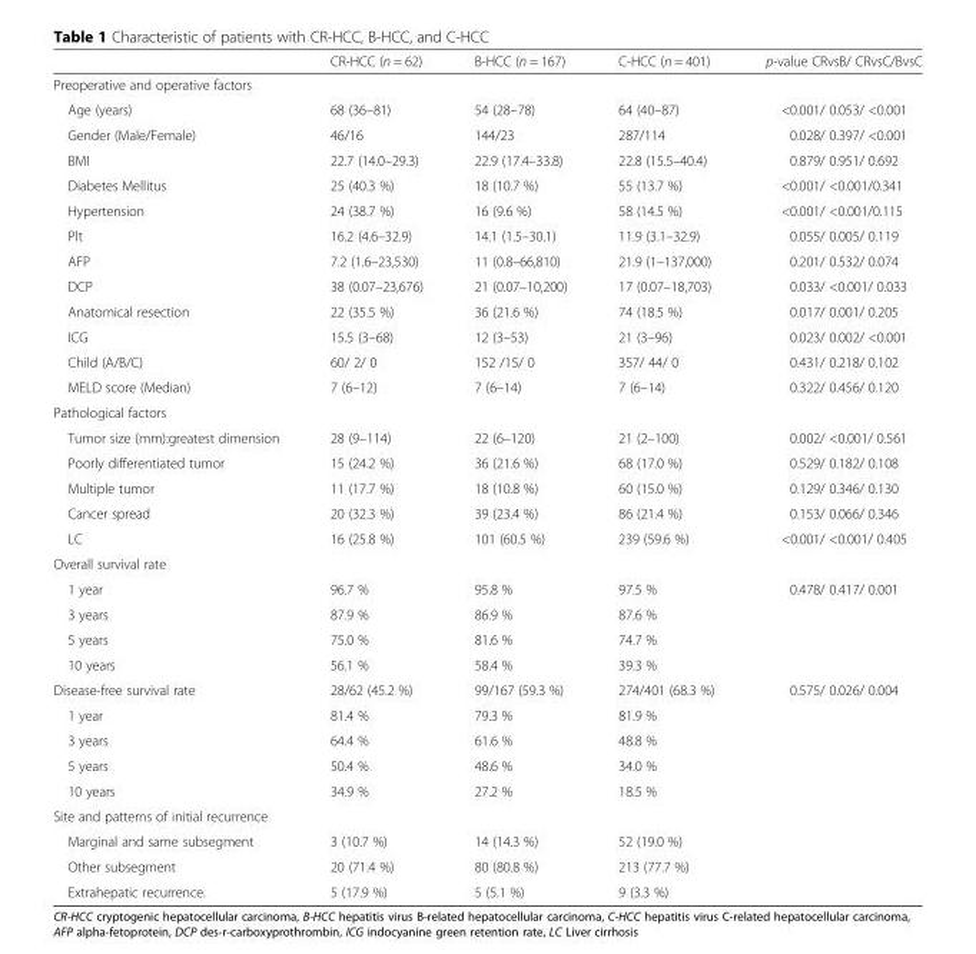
<table><thead><tr><td></td><td>CR-HCC (n = 62)</td><td>B-HCC (n = 167)</td><td>C-HCC (n = 401)</td><td>p-value CRvsB/ CRvsC/BvsC</td></tr></thead><tbody><tr><td colspan="5">Preoperative and operative factors</td></tr><tr><td>Age (years)</td><td>68 (36–81)</td><td>54 (28–78)</td><td>64 (40–87)</td><td>&lt;0.001/ 0.053/ &lt;0.001</td></tr><tr><td>Gender (Male/Female)</td><td>46/16</td><td>144/23</td><td>287/114</td><td>0.028/ 0.397/ &lt;0.001</td></tr><tr><td>BMI</td><td>22.7 (14.0–29.3)</td><td>22.9 (17.4–33.8)</td><td>22.8 (15.5–40.4)</td><td>0.879/ 0.951/ 0.692</td></tr><tr><td>Diabetes Mellitus</td><td>25 (40.3 %)</td><td>18 (10.7 %)</td><td>55 (13.7 %)</td><td>&lt;0.001/ &lt;0.001/0.341</td></tr><tr><td>Hypertension</td><td>24 (38.7 %)</td><td>16 (9.6 %)</td><td>58 (14.5 %)</td><td>&lt;0.001/ &lt;0.001/0.115</td></tr><tr><td>Plt</td><td>16.2 (4.6–32.9)</td><td>14.1 (1.5–30.1)</td><td>11.9 (3.1–32.9)</td><td>0.055/ 0.005/ 0.119</td></tr><tr><td>AFP</td><td>7.2 (1.6–23,530)</td><td>11 (0.8–66,810)</td><td>21.9 (1–137,000)</td><td>0.201/ 0.532/ 0.074</td></tr><tr><td>DCP</td><td>38 (0.07–23,676)</td><td>21 (0.07–10,200)</td><td>17 (0.07–18,703)</td><td>0.033/ &lt;0.001/ 0.033</td></tr><tr><td>Anatomical resection</td><td>22 (35.5 %)</td><td>36 (21.6 %)</td><td>74 (18.5 %)</td><td>0.017/ 0.001/ 0.205</td></tr><tr><td>ICG</td><td>15.5 (3–68)</td><td>12 (3–53)</td><td>21 (3–96)</td><td>0.023/ 0.002/ &lt;0.001</td></tr><tr><td>Child (A/B/C)</td><td>60/ 2/ 0</td><td>152 /15/ 0</td><td>357/ 44/ 0</td><td>0.431/ 0.218/ 0.102</td></tr><tr><td>MELD score (Median)</td><td>7 (6–12)</td><td>7 (6–14)</td><td>7 (6–14)</td><td>0.322/ 0.456/ 0.120</td></tr><tr><td colspan="5">Pathological factors</td></tr><tr><td>Tumor size (mm):greatest dimension</td><td>28 (9–114)</td><td>22 (6–120)</td><td>21 (2–100)</td><td>0.002/ &lt;0.001/ 0.561</td></tr><tr><td>Poorly differentiated tumor</td><td>15 (24.2 %)</td><td>36 (21.6 %)</td><td>68 (17.0 %)</td><td>0.529/ 0.182/ 0.108</td></tr><tr><td>Multiple tumor</td><td>11 (17.7 %)</td><td>18 (10.8 %)</td><td>60 (15.0 %)</td><td>0.129/ 0.346/ 0.130</td></tr><tr><td>Cancer spread</td><td>20 (32.3 %)</td><td>39 (23.4 %)</td><td>86 (21.4 %)</td><td>0.153/ 0.066/ 0.346</td></tr><tr><td>LC</td><td>16 (25.8 %)</td><td>101 (60.5 %)</td><td>239 (59.6 %)</td><td>&lt;0.001/ &lt;0.001/ 0.405</td></tr><tr><td colspan="5">Overall survival rate</td></tr><tr><td>1 year</td><td>96.7 %</td><td>95.8 %</td><td>97.5 %</td><td rowspan="4">0.478/ 0.417/ 0.001</td></tr><tr><td>3 years</td><td>87.9 %</td><td>86.9 %</td><td>87.6 %</td></tr><tr><td>5 years</td><td>75.0 %</td><td>81.6 %</td><td>74.7 %</td></tr><tr><td>10 years</td><td>56.1 %</td><td>58.4 %</td><td>39.3 %</td></tr><tr><td>Disease-free survival rate</td><td>28/62 (45.2 %)</td><td>99/167 (59.3 %)</td><td>274/401 (68.3 %)</td><td rowspan="5">0.575/ 0.026/ 0.004</td></tr><tr><td>1 year</td><td>81.4 %</td><td>79.3 %</td><td>81.9 %</td></tr><tr><td>3 years</td><td>64.4 %</td><td>61.6 %</td><td>48.8 %</td></tr><tr><td>5 years</td><td>50.4 %</td><td>48.6 %</td><td>34.0 %</td></tr><tr><td>10 years</td><td>34.9 %</td><td>27.2 %</td><td>18.5 %</td></tr><tr><td colspan="5">Site and patterns of initial recurrence</td></tr><tr><td>Marginal and same subsegment</td><td>3 (10.7 %)</td><td>14 (14.3 %)</td><td>52 (19.0 %)</td><td></td></tr><tr><td>Other subsegment</td><td>20 (71.4 %)</td><td>80 (80.8 %)</td><td>213 (77.7 %)</td><td></td></tr><tr><td>Extrahepatic recurrence.</td><td>5 (17.9 %)</td><td>5 (5.1 %)</td><td>9 (3.3 %)</td><td></td></tr></tbody></table>